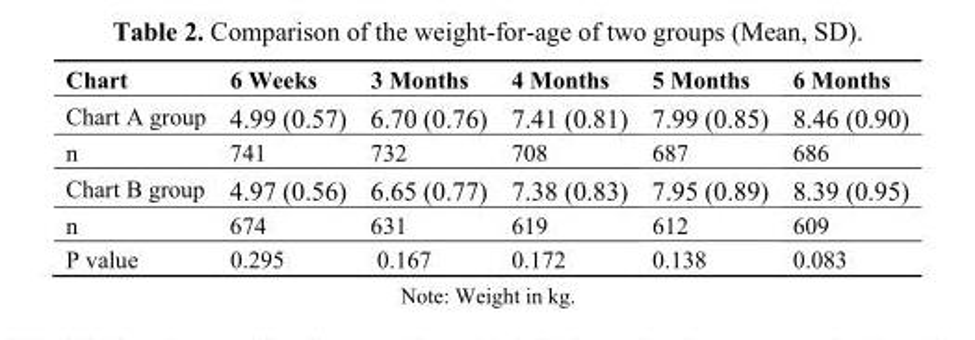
<table><thead><tr><td>Chart</td><td>6 Weeks</td><td>3 Months</td><td>4 Months</td><td>5 Months</td><td>6 Months</td></tr></thead><tbody><tr><td>Chart A group</td><td>4.99 (0.57)</td><td>6.70 (0.76)</td><td>7.41 (0.81)</td><td>7.99 (0.85)</td><td>8.46 (0.90)</td></tr><tr><td>n</td><td>741</td><td>732</td><td>708</td><td>687</td><td>686</td></tr><tr><td>Chart B group</td><td>4.97 (0.56)</td><td>6.65 (0.77)</td><td>7.38 (0.83)</td><td>7.95 (0.89)</td><td>8.39 (0.95)</td></tr><tr><td>n</td><td>674</td><td>631</td><td>619</td><td>612</td><td>609</td></tr><tr><td>P value</td><td>0.295</td><td>0.167</td><td>0.172</td><td>0.138</td><td>0.083</td></tr></tbody></table>